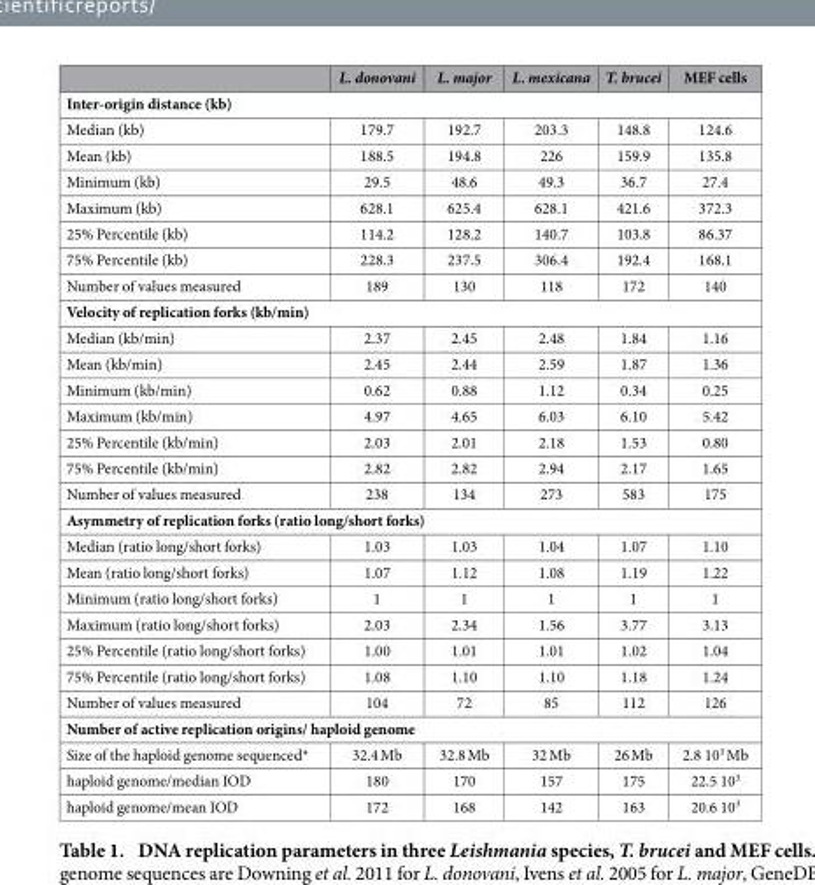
<table><thead><tr><td></td><td>L. donovani</td><td>L. major</td><td>L. mexicana</td><td>T. brucei</td><td>MEF cells</td></tr></thead><tbody><tr><td colspan="6">Inter-origin distance (kb)</td></tr><tr><td>Median (kb)</td><td>179.7</td><td>192.7</td><td>203.3</td><td>148.8</td><td>124.6</td></tr><tr><td>Mean (kb)</td><td>188.5</td><td>194.8</td><td>226</td><td>159.9</td><td>135.8</td></tr><tr><td>Minimum (kb)</td><td>29.5</td><td>48.6</td><td>49.3</td><td>36.7</td><td>27.4</td></tr><tr><td>Maximum (kb)</td><td>628.1</td><td>625.4</td><td>628.1</td><td>421.6</td><td>372.3</td></tr><tr><td>25% Percentile (kb)</td><td>114.2</td><td>128.2</td><td>140.7</td><td>103.8</td><td>86.37</td></tr><tr><td>75% Percentile (kb)</td><td>228.3</td><td>237.5</td><td>306.4</td><td>192.4</td><td>168.1</td></tr><tr><td>Number of values measured</td><td>189</td><td>130</td><td>118</td><td>172</td><td>140</td></tr><tr><td colspan="6">Velocity of replication forks (kb/min)</td></tr><tr><td>Median (kb/min)</td><td>2.37</td><td>2.45</td><td>2.48</td><td>1.84</td><td>1.16</td></tr><tr><td>Mean (kb/min)</td><td>2.45</td><td>2.44</td><td>2.59</td><td>1.87</td><td>1.36</td></tr><tr><td>Minimum (kb/min)</td><td>0.62</td><td>0.88</td><td>1.12</td><td>0.34</td><td>0.25</td></tr><tr><td>Maximum (kb/min)</td><td>4.97</td><td>4.65</td><td>6.03</td><td>6.10</td><td>5.42</td></tr><tr><td>25% Percentile (kb/min)</td><td>2.03</td><td>2.01</td><td>2.18</td><td>1.53</td><td>0.80</td></tr><tr><td>75% Percentile (kb/min)</td><td>2.82</td><td>2.82</td><td>2.94</td><td>2.17</td><td>1.65</td></tr><tr><td>Number of values measured</td><td>238</td><td>134</td><td>273</td><td>583</td><td>175</td></tr><tr><td colspan="6">Asymmetry of replication forks (ratio long/short forks)</td></tr><tr><td>Median (ratio long/short forks)</td><td>1.03</td><td>1.03</td><td>1.04</td><td>1.07</td><td>1.10</td></tr><tr><td>Mean (ratio long/short forks)</td><td>1.07</td><td>1.12</td><td>1.08</td><td>1.19</td><td>1.22</td></tr><tr><td>Minimum (ratio long/short forks)</td><td>1</td><td>1</td><td>1</td><td>1</td><td>1</td></tr><tr><td>Maximum (ratio long/short forks)</td><td>2.03</td><td>2.34</td><td>1.56</td><td>3.77</td><td>3.13</td></tr><tr><td>25% Percentile (ratio long/short forks)</td><td>1.00</td><td>1.01</td><td>1.01</td><td>1.02</td><td>1.04</td></tr><tr><td>75% Percentile (ratio long/short forks)</td><td>1.08</td><td>1.10</td><td>1.10</td><td>1.18</td><td>1.24</td></tr><tr><td>Number of values measured</td><td>104</td><td>72</td><td>85</td><td>112</td><td>126</td></tr><tr><td colspan="6">Number of active replication origins/ haploid genome</td></tr><tr><td>Size of the haploid genome sequenced*</td><td>32.4 Mb</td><td>32.8 Mb</td><td>32 Mb</td><td>26 Mb</td><td>2.8 10<sup>3</sup> Mb</td></tr><tr><td>haploid genome/median IOD</td><td>180</td><td>170</td><td>157</td><td>175</td><td>22.5 10<sup>3</sup></td></tr><tr><td>haploid genome/mean IOD</td><td>172</td><td>168</td><td>142</td><td>163</td><td>20.6 10<sup>3</sup></td></tr></tbody></table>